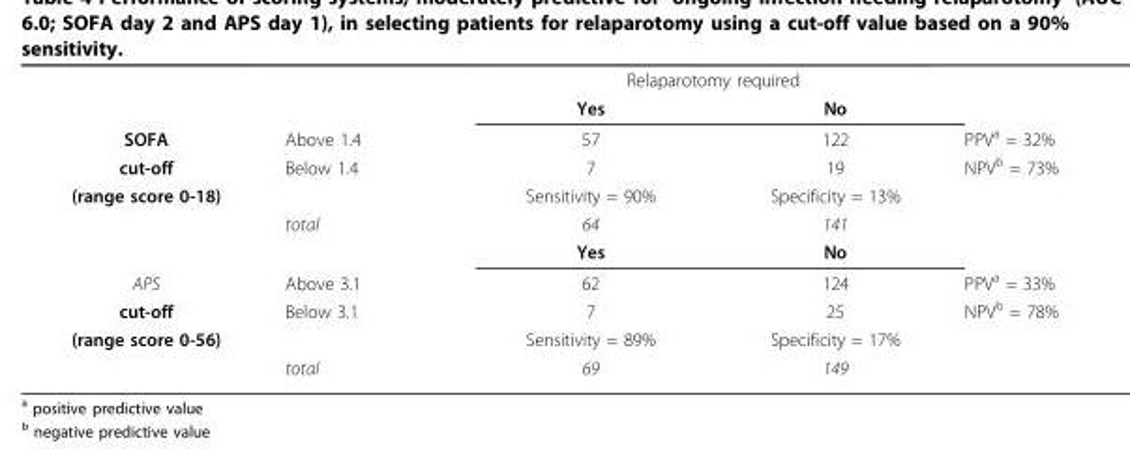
<table><thead><tr><td rowspan="2"></td><td rowspan="2"></td><td colspan="2">Relaparotomy required</td><td rowspan="2"></td></tr><tr><td>Yes</td><td>No</td></tr></thead><tbody><tr><td>SOFA</td><td>Above 1.4</td><td>57</td><td>122</td><td>PPV<sup>a</sup> = 32%</td></tr><tr><td>cut-off</td><td>Below 1.4</td><td>7</td><td>19</td><td>NPV<sup>b</sup> = 73%</td></tr><tr><td rowspan="3">(range score 0-18)</td><td></td><td>Sensitivity = 90%</td><td>Specificity = 13%</td><td></td></tr><tr><td>total</td><td>64</td><td>141</td><td></td></tr><tr><td></td><td>Yes</td><td>No</td><td></td></tr><tr><td>APS</td><td>Above 3.1</td><td>62</td><td>124</td><td>PPV<sup>a</sup> = 33%</td></tr><tr><td>cut-off</td><td>Below 3.1</td><td>7</td><td>25</td><td>NPV<sup>b</sup> = 78%</td></tr><tr><td rowspan="2">(range score 0-56)</td><td></td><td>Sensitivity = 89%</td><td>Specificity = 17%</td><td></td></tr><tr><td>total</td><td>69</td><td>149</td><td></td></tr></tbody></table>